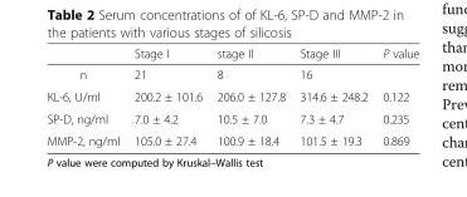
<table><thead><tr><td></td><td>Stage I</td><td>stage II</td><td>Stage III</td><td>P value</td></tr></thead><tbody><tr><td>n</td><td>21</td><td>8</td><td>16</td><td></td></tr><tr><td>KL-6, U/ml</td><td>200.2 ± 101.6</td><td>206.0 ± 127.8</td><td>314.6 ± 248.2</td><td>0.122</td></tr><tr><td>SP-D, ng/ml</td><td>7.0 ± 4.2</td><td>10.5 ± 7.0</td><td>7.3 ± 4.7</td><td>0.235</td></tr><tr><td>MMP-2, ng/ml</td><td>105.0 ± 27.4</td><td>100.9 ± 18.4</td><td>101.5 ± 19.3</td><td>0.869</td></tr></tbody></table>